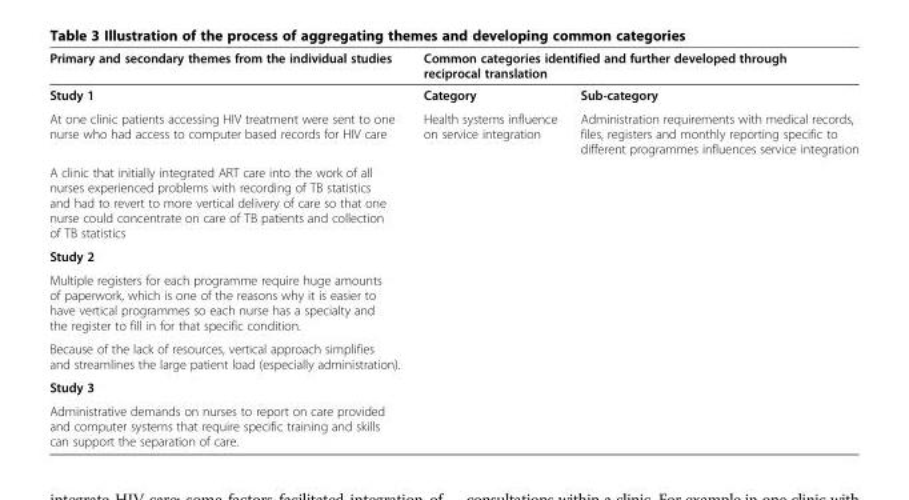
<table><thead><tr><td rowspan="2">Primary and secondary themes from the individual studies Study 1</td><td colspan="2">Common categories identified and further developed through reciprocal translation</td></tr><tr><td>Category</td><td>Sub-category</td></tr></thead><tbody><tr><td>At one clinic patients accessing HIV treatment were sent to one nurse who had access to computer based records for HIV care</td><td>Health systems influence on service integration</td><td>Administration requirements with medical records, files, registers and monthly reporting specific to different programmes influences service integration</td></tr><tr><td colspan="3">A clinic that initially integrated ART care into the work of all nurses experienced problems with recording of TB statistics and had to revert to more vertical delivery of care so that one nurse could concentrate on care of TB patients and collection of TB statistics</td></tr><tr><td colspan="3">Study 2</td></tr><tr><td colspan="3">Multiple registers for each programme require huge amounts of paperwork, which is one of the reasons why it is easier to have vertical programmes so each nurse has a specialty and the register to fill in for that specific condition.</td></tr><tr><td colspan="3">Because of the lack of resources, vertical approach simplifies and streamlines the large patient load (especially administration).</td></tr><tr><td colspan="3">Study 3</td></tr><tr><td>Administrative demands on nurses to report on care provided and computer systems that require specific training and skills can support the separation of care.</td><td></td><td></td></tr></tbody></table>